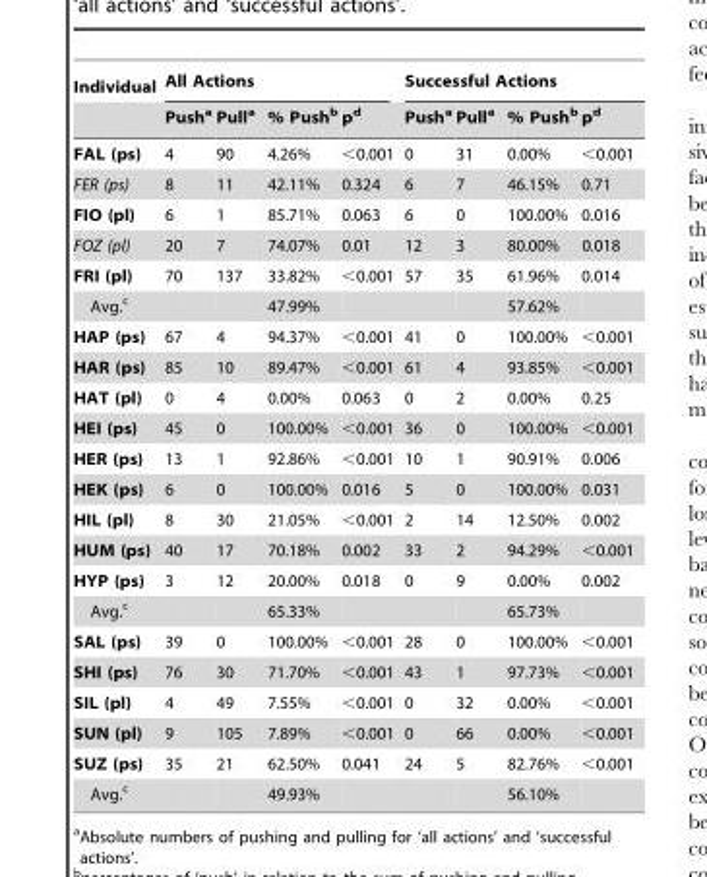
<table><thead><tr><td rowspan="2">Individual</td><td colspan="4">All Actions</td><td colspan="4">Successful Actions</td></tr><tr><td>Push<sup>a</sup></td><td>Pull<sup>a</sup></td><td>% Push<sup>b</sup></td><td>p<sup>d</sup></td><td>Push<sup>a</sup></td><td>Pull<sup>a</sup></td><td>% Push<sup>b</sup></td><td>p<sup>d</sup></td></tr></thead><tbody><tr><td>FAL (ps)</td><td>4</td><td>90</td><td>4.26%</td><td>&lt;0.001</td><td>0</td><td>31</td><td>0.00%</td><td>&lt;0.001</td></tr><tr><td>FER (ps)</td><td>8</td><td>11</td><td>42.11%</td><td>0.324</td><td>6</td><td>7</td><td>46.15%</td><td>0.71</td></tr><tr><td>FIO (pl)</td><td>6</td><td>1</td><td>85.71%</td><td>0.063</td><td>6</td><td>0</td><td>100.00%</td><td>0.016</td></tr><tr><td>FOZ (pl)</td><td>20</td><td>7</td><td>74.07%</td><td>0.01</td><td>12</td><td>3</td><td>80.00%</td><td>0.018</td></tr><tr><td>FRI (pl)</td><td>70</td><td>137</td><td>33.82%</td><td>&lt;0.001</td><td>57</td><td>35</td><td>61.96%</td><td>0.014</td></tr><tr><td>Avg.<sup>c</sup></td><td></td><td></td><td>47.99%</td><td></td><td></td><td></td><td>57.62%</td><td></td></tr><tr><td>HAP (ps)</td><td>67</td><td>4</td><td>94.37%</td><td>&lt;0.001</td><td>41</td><td>0</td><td>100.00%</td><td>&lt;0.001</td></tr><tr><td>HAR (ps)</td><td>85</td><td>10</td><td>89.47%</td><td>&lt;0.001</td><td>61</td><td>4</td><td>93.85%</td><td>&lt;0.001</td></tr><tr><td>HAT (pl)</td><td>0</td><td>4</td><td>0.00%</td><td>0.063</td><td>0</td><td>2</td><td>0.00%</td><td>0.25</td></tr><tr><td>HEI (ps)</td><td>45</td><td>0</td><td>100.00%</td><td>&lt;0.001</td><td>36</td><td>0</td><td>100.00%</td><td>&lt;0.001</td></tr><tr><td>HER (ps)</td><td>13</td><td>1</td><td>92.86%</td><td>&lt;0.001</td><td>10</td><td>1</td><td>90.91%</td><td>0.006</td></tr><tr><td>HEK (ps)</td><td>6</td><td>0</td><td>100.00%</td><td>0.016</td><td>5</td><td>0</td><td>100.00%</td><td>0.031</td></tr><tr><td>HIL (pl)</td><td>8</td><td>30</td><td>21.05%</td><td>&lt;0.001</td><td>2</td><td>14</td><td>12.50%</td><td>0.002</td></tr><tr><td>HUM (ps)</td><td>40</td><td>17</td><td>70.18%</td><td>0.002</td><td>33</td><td>2</td><td>94.29%</td><td>&lt;0.001</td></tr><tr><td>HYP (ps)</td><td>3</td><td>12</td><td>20.00%</td><td>0.018</td><td>0</td><td>9</td><td>0.00%</td><td>0.002</td></tr><tr><td>Avg.<sup>c</sup></td><td></td><td></td><td>65.33%</td><td></td><td></td><td></td><td>65.73%</td><td></td></tr><tr><td>SAL (ps)</td><td>39</td><td>0</td><td>100.00%</td><td>&lt;0.001</td><td>28</td><td>0</td><td>100.00%</td><td>&lt;0.001</td></tr><tr><td>SHI (ps)</td><td>76</td><td>30</td><td>71.70%</td><td>&lt;0.001</td><td>43</td><td>1</td><td>97.73%</td><td>&lt;0.001</td></tr><tr><td>SIL (pl)</td><td>4</td><td>49</td><td>7.55%</td><td>&lt;0.001</td><td>0</td><td>32</td><td>0.00%</td><td>&lt;0.001</td></tr><tr><td>SUN (pl)</td><td>9</td><td>105</td><td>7.89%</td><td>&lt;0.001</td><td>0</td><td>66</td><td>0.00%</td><td>&lt;0.001</td></tr><tr><td>SUZ (ps)</td><td>35</td><td>21</td><td>62.50%</td><td>0.041</td><td>24</td><td>5</td><td>82.76%</td><td>&lt;0.001</td></tr><tr><td>Avg.<sup>c</sup></td><td></td><td></td><td>49.93%</td><td></td><td></td><td></td><td>56.10%</td><td></td></tr></tbody></table>